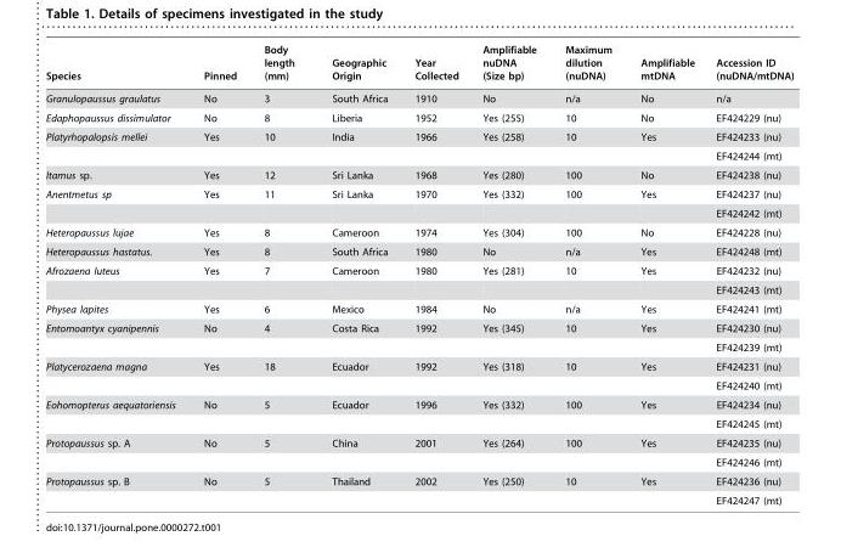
<table><thead><tr><td>Species</td><td>Pinned</td><td>Body length (mm)</td><td>Geographic Origin</td><td>Year Collected</td><td>Amplifiable nuDNA (Size bp)</td><td>Maximum dilution (nuDNA)</td><td>Amplifiable mtDNA</td><td>Accession ID (nuDNA/mtDNA)</td></tr></thead><tbody><tr><td>Granulopaussus graulatus</td><td>No</td><td>3</td><td>South Africa</td><td>1910</td><td>No</td><td>n/a</td><td>No</td><td>n/a</td></tr><tr><td>Edaphopaussus dissimulator</td><td>No</td><td>8</td><td>Liberia</td><td>1952</td><td>Yes (255)</td><td>10</td><td>No</td><td>EF424229 (nu)</td></tr><tr><td rowspan="2">Platyrhopalopsis mellei</td><td>Yes</td><td>10</td><td>India</td><td>1966</td><td>Yes (258)</td><td>10</td><td>Yes</td><td>EF424233 (nu)</td></tr><tr><td></td><td></td><td></td><td></td><td></td><td></td><td></td><td>EF424244 (mt)</td></tr><tr><td>Itamus sp.</td><td>Yes</td><td>12</td><td>Sri Lanka</td><td>1968</td><td>Yes (280)</td><td>100</td><td>No</td><td>EF424238 (nu)</td></tr><tr><td rowspan="2">Anentmetus sp</td><td>Yes</td><td>11</td><td>Sri Lanka</td><td>1970</td><td>Yes (332)</td><td>100</td><td>Yes</td><td>EF424237 (nu)</td></tr><tr><td></td><td></td><td></td><td></td><td></td><td></td><td></td><td>EF424242 (mt)</td></tr><tr><td>Heteropaussus lujae</td><td>Yes</td><td>8</td><td>Cameroon</td><td>1974</td><td>Yes (304)</td><td>100</td><td>No</td><td>EF424228 (nu)</td></tr><tr><td>Heteropaussus hastatus.</td><td>Yes</td><td>8</td><td>South Africa</td><td>1980</td><td>No</td><td>n/a</td><td>Yes</td><td>EF424248 (mt)</td></tr><tr><td rowspan="2">Afrozaena luteus</td><td>Yes</td><td>7</td><td>Cameroon</td><td>1980</td><td>Yes (281)</td><td>10</td><td>Yes</td><td>EF424232 (nu)</td></tr><tr><td></td><td></td><td></td><td></td><td></td><td></td><td></td><td>EF424243 (mt)</td></tr><tr><td>Physea lapites</td><td>Yes</td><td>6</td><td>Mexico</td><td>1984</td><td>No</td><td>n/a</td><td>Yes</td><td>EF424241 (mt)</td></tr><tr><td rowspan="2">Entomoantyx cyanipennis</td><td>No</td><td>4</td><td>Costa Rica</td><td>1992</td><td>Yes (345)</td><td>10</td><td>Yes</td><td>EF424230 (nu)</td></tr><tr><td></td><td></td><td></td><td></td><td></td><td></td><td></td><td>EF424239 (mt)</td></tr><tr><td rowspan="2">Platycerozaena magna</td><td>Yes</td><td>18</td><td>Ecuador</td><td>1992</td><td>Yes (318)</td><td>10</td><td>Yes</td><td>EF424231 (nu)</td></tr><tr><td></td><td></td><td></td><td></td><td></td><td></td><td></td><td>EF424240 (mt)</td></tr><tr><td rowspan="2">Eohomopterus aequatoriensis</td><td>No</td><td>5</td><td>Ecuador</td><td>1996</td><td>Yes (332)</td><td>100</td><td>Yes</td><td>EF424234 (nu)</td></tr><tr><td></td><td></td><td></td><td></td><td></td><td></td><td></td><td>EF424245 (mt)</td></tr><tr><td rowspan="2">Protopaussus sp. A</td><td>No</td><td>5</td><td>China</td><td>2001</td><td>Yes (264)</td><td>100</td><td>Yes</td><td>EF424235 (nu)</td></tr><tr><td></td><td></td><td></td><td></td><td></td><td></td><td></td><td>EF424246 (mt)</td></tr><tr><td rowspan="2">Protopaussus sp. B</td><td>No</td><td>5</td><td>Thailand</td><td>2002</td><td>Yes (250)</td><td>10</td><td>Yes</td><td>EF424236 (nu)</td></tr><tr><td></td><td></td><td></td><td></td><td></td><td></td><td></td><td>EF424247 (mt)</td></tr></tbody></table>